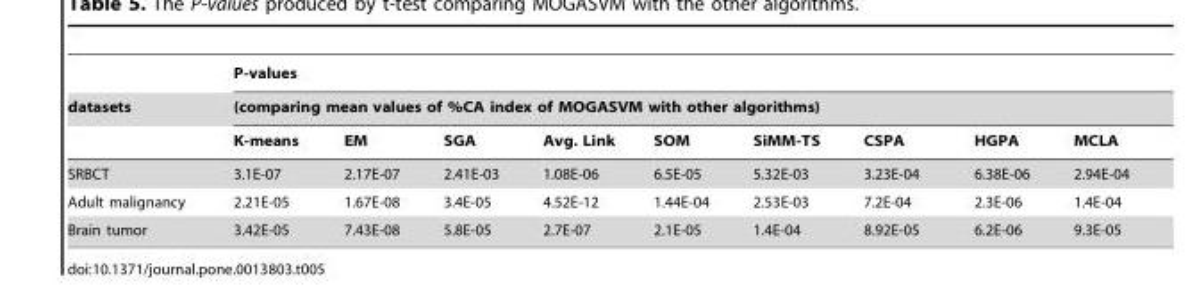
<table><thead><tr><td rowspan="3">datasets</td><td rowspan="2" colspan="9">P-values (comparing mean values of %CA index of MOGASVM with other algorithms)</td></tr><tr></tr><tr><td>K-means</td><td>EM</td><td>SGA</td><td>Avg. Link</td><td>SOM</td><td>SiMM-TS</td><td>CSPA</td><td>HGPA</td><td>MCLA</td></tr></thead><tbody><tr><td>SRBCT</td><td>3.1E-07</td><td>2.17E-07</td><td>2.41E-03</td><td>1.08E-06</td><td>6.5E-05</td><td>5.32E-03</td><td>3.23E-04</td><td>6.38E-06</td><td>2.94E-04</td></tr><tr><td>Adult malignancy</td><td>2.21E-05</td><td>1.67E-08</td><td>3.4E-05</td><td>4.52E-12</td><td>1.44E-04</td><td>2.53E-03</td><td>7.2E-04</td><td>2.3E-06</td><td>1.4E-04</td></tr><tr><td>Brain tumor</td><td>3.42E-05</td><td>7.43E-08</td><td>5.8E-05</td><td>2.7E-07</td><td>2.1E-05</td><td>1.4E-04</td><td>8.92E-05</td><td>6.2E-06</td><td>9.3E-05</td></tr></tbody></table>